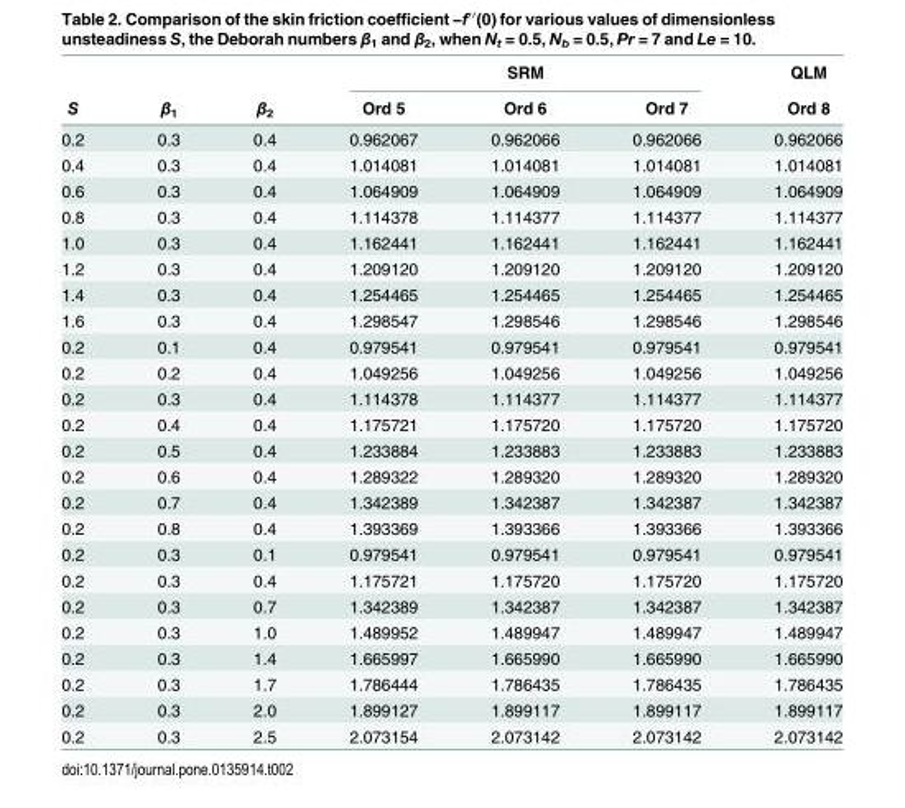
<table><thead><tr><td rowspan="2">S</td><td rowspan="2">β<sub>1</sub></td><td rowspan="2">β<sub>2</sub></td><td colspan="3">SRM</td><td rowspan="2">QLM Ord 8</td></tr><tr><td>Ord 5</td><td>Ord 6</td><td>Ord 7</td></tr></thead><tbody><tr><td>0.2</td><td>0.3</td><td>0.4</td><td>0.962067</td><td>0.962066</td><td>0.962066</td><td>0.962066</td></tr><tr><td>0.4</td><td>0.3</td><td>0.4</td><td>1.014081</td><td>1.014081</td><td>1.014081</td><td>1.014081</td></tr><tr><td>0.6</td><td>0.3</td><td>0.4</td><td>1.064909</td><td>1.064909</td><td>1.064909</td><td>1.064909</td></tr><tr><td>0.8</td><td>0.3</td><td>0.4</td><td>1.114378</td><td>1.114377</td><td>1.114377</td><td>1.114377</td></tr><tr><td>1.0</td><td>0.3</td><td>0.4</td><td>1.162441</td><td>1.162441</td><td>1.162441</td><td>1.162441</td></tr><tr><td>1.2</td><td>0.3</td><td>0.4</td><td>1.209120</td><td>1.209120</td><td>1.209120</td><td>1.209120</td></tr><tr><td>1.4</td><td>0.3</td><td>0.4</td><td>1.254465</td><td>1.254465</td><td>1.254465</td><td>1.254465</td></tr><tr><td>1.6</td><td>0.3</td><td>0.4</td><td>1.298547</td><td>1.298546</td><td>1.298546</td><td>1.298546</td></tr><tr><td>0.2</td><td>0.1</td><td>0.4</td><td>0.979541</td><td>0.979541</td><td>0.979541</td><td>0.979541</td></tr><tr><td>0.2</td><td>0.2</td><td>0.4</td><td>1.049256</td><td>1.049256</td><td>1.049256</td><td>1.049256</td></tr><tr><td>0.2</td><td>0.3</td><td>0.4</td><td>1.114378</td><td>1.114377</td><td>1.114377</td><td>1.114377</td></tr><tr><td>0.2</td><td>0.4</td><td>0.4</td><td>1.175721</td><td>1.175720</td><td>1.175720</td><td>1.175720</td></tr><tr><td>0.2</td><td>0.5</td><td>0.4</td><td>1.233884</td><td>1.233883</td><td>1.233883</td><td>1.233883</td></tr><tr><td>0.2</td><td>0.6</td><td>0.4</td><td>1.289322</td><td>1.289320</td><td>1.289320</td><td>1.289320</td></tr><tr><td>0.2</td><td>0.7</td><td>0.4</td><td>1.342389</td><td>1.342387</td><td>1.342387</td><td>1.342387</td></tr><tr><td>0.2</td><td>0.8</td><td>0.4</td><td>1.393369</td><td>1.393366</td><td>1.393366</td><td>1.393366</td></tr><tr><td>0.2</td><td>0.3</td><td>0.1</td><td>0.979541</td><td>0.979541</td><td>0.979541</td><td>0.979541</td></tr><tr><td>0.2</td><td>0.3</td><td>0.4</td><td>1.175721</td><td>1.175720</td><td>1.175720</td><td>1.175720</td></tr><tr><td>0.2</td><td>0.3</td><td>0.7</td><td>1.342389</td><td>1.342387</td><td>1.342387</td><td>1.342387</td></tr><tr><td>0.2</td><td>0.3</td><td>1.0</td><td>1.489952</td><td>1.489947</td><td>1.489947</td><td>1.489947</td></tr><tr><td>0.2</td><td>0.3</td><td>1.4</td><td>1.665997</td><td>1.665990</td><td>1.665990</td><td>1.665990</td></tr><tr><td>0.2</td><td>0.3</td><td>1.7</td><td>1.786444</td><td>1.786435</td><td>1.786435</td><td>1.786435</td></tr><tr><td>0.2</td><td>0.3</td><td>2.0</td><td>1.899127</td><td>1.899117</td><td>1.899117</td><td>1.899117</td></tr><tr><td>0.2</td><td>0.3</td><td>2.5</td><td>2.073154</td><td>2.073142</td><td>2.073142</td><td>2.073142</td></tr></tbody></table>